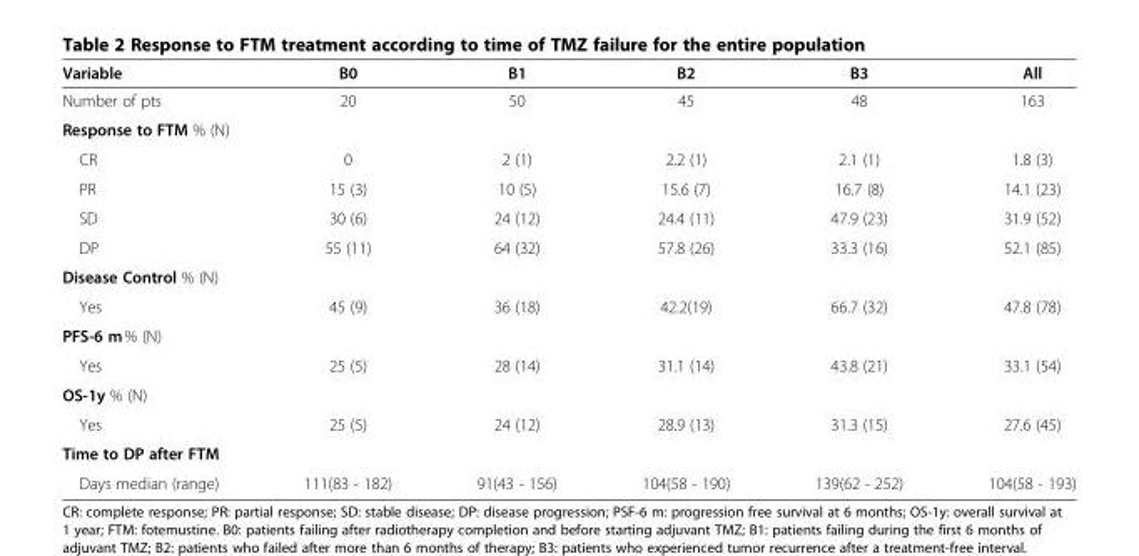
<table><thead><tr><td>Variable</td><td>B0</td><td>B1</td><td>B2</td><td>B3</td><td>All</td></tr></thead><tbody><tr><td>Number of pts</td><td>20</td><td>50</td><td>45</td><td>48</td><td>163</td></tr><tr><td colspan="6">Response to FTM % (N)</td></tr><tr><td>CR</td><td>0</td><td>2 (1)</td><td>2.2 (1)</td><td>2.1 (1)</td><td>1.8 (3)</td></tr><tr><td>PR</td><td>15 (3)</td><td>10 (5)</td><td>15.6 (7)</td><td>16.7 (8)</td><td>14.1 (23)</td></tr><tr><td>SD</td><td>30 (6)</td><td>24 (12)</td><td>24.4 (11)</td><td>47.9 (23)</td><td>31.9 (52)</td></tr><tr><td>DP</td><td>55 (11)</td><td>64 (32)</td><td>57.8 (26)</td><td>33.3 (16)</td><td>52.1 (85)</td></tr><tr><td colspan="6">Disease Control % (N)</td></tr><tr><td>Yes</td><td>45 (9)</td><td>36 (18)</td><td>42.2(19)</td><td>66.7 (32)</td><td>47.8 (78)</td></tr><tr><td colspan="6">PFS-6 m % (N)</td></tr><tr><td>Yes</td><td>25 (5)</td><td>28 (14)</td><td>31.1 (14)</td><td>43.8 (21)</td><td>33.1 (54)</td></tr><tr><td colspan="6">OS-1y % (N)</td></tr><tr><td>Yes</td><td>25 (5)</td><td>24 (12)</td><td>28.9 (13)</td><td>31.3 (15)</td><td>27.6 (45)</td></tr><tr><td colspan="6">Time to DP after FTM</td></tr><tr><td>Days median (range)</td><td>111(83 - 182)</td><td>91(43 - 156)</td><td>104(58 - 190)</td><td>139(62 - 252)</td><td>104(58 - 193)</td></tr></tbody></table>